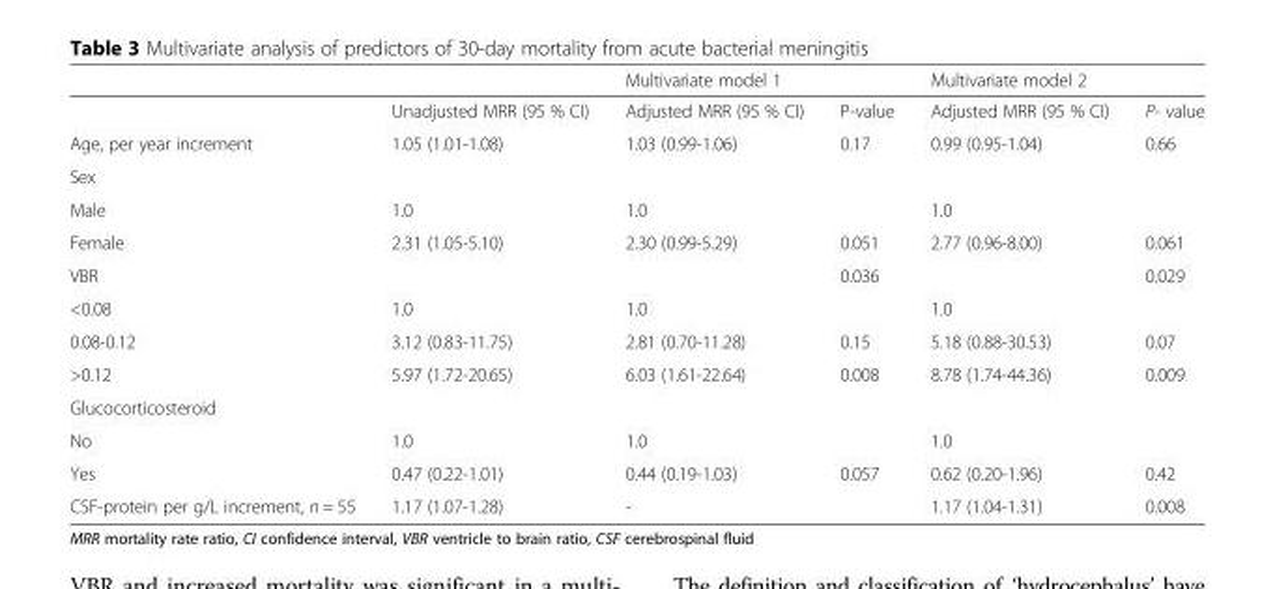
<table><thead><tr><td></td><td></td><td>Multivariate model 1</td><td></td><td>Multivariate model 2</td><td></td></tr></thead><tbody><tr><td></td><td>Unadjusted MRR (95 % CI)</td><td>Adjusted MRR (95 % CI)</td><td>P-value</td><td>Adjusted MRR (95 % CI)</td><td>P- value</td></tr><tr><td>Age, per year increment</td><td>1.05 (1.01-1.08)</td><td>1.03 (0.99-1.06)</td><td>0.17</td><td>0.99 (0.95-1.04)</td><td>0.66</td></tr><tr><td colspan="6">Sex</td></tr><tr><td>Male</td><td>1.0</td><td>1.0</td><td></td><td>1.0</td><td></td></tr><tr><td>Female</td><td>2.31 (1.05-5.10)</td><td>2.30 (0.99-5.29)</td><td>0.051</td><td>2.77 (0.96-8.00)</td><td>0.061</td></tr><tr><td>VBR</td><td></td><td></td><td>0.036</td><td></td><td>0.029</td></tr><tr><td>&lt;0.08</td><td>1.0</td><td>1.0</td><td></td><td>1.0</td><td></td></tr><tr><td>0.08-0.12</td><td>3.12 (0.83-11.75)</td><td>2.81 (0.70-11.28)</td><td>0.15</td><td>5.18 (0.88-30.53)</td><td>0.07</td></tr><tr><td>&gt;0.12</td><td>5.97 (1.72-20.65)</td><td>6.03 (1.61-22.64)</td><td>0.008</td><td>8.78 (1.74-44.36)</td><td>0.009</td></tr><tr><td colspan="6">Glucocorticosteroid</td></tr><tr><td>No</td><td>1.0</td><td>1.0</td><td></td><td>1.0</td><td></td></tr><tr><td>Yes</td><td>0.47 (0.22-1.01)</td><td>0.44 (0.19-1.03)</td><td>0.057</td><td>0.62 (0.20-1.96)</td><td>0.42</td></tr><tr><td>CSF-protein per g/L increment, n = 55</td><td>1.17 (1.07-1.28)</td><td>-</td><td></td><td>1.17 (1.04-1.31)</td><td>0.008</td></tr></tbody></table>